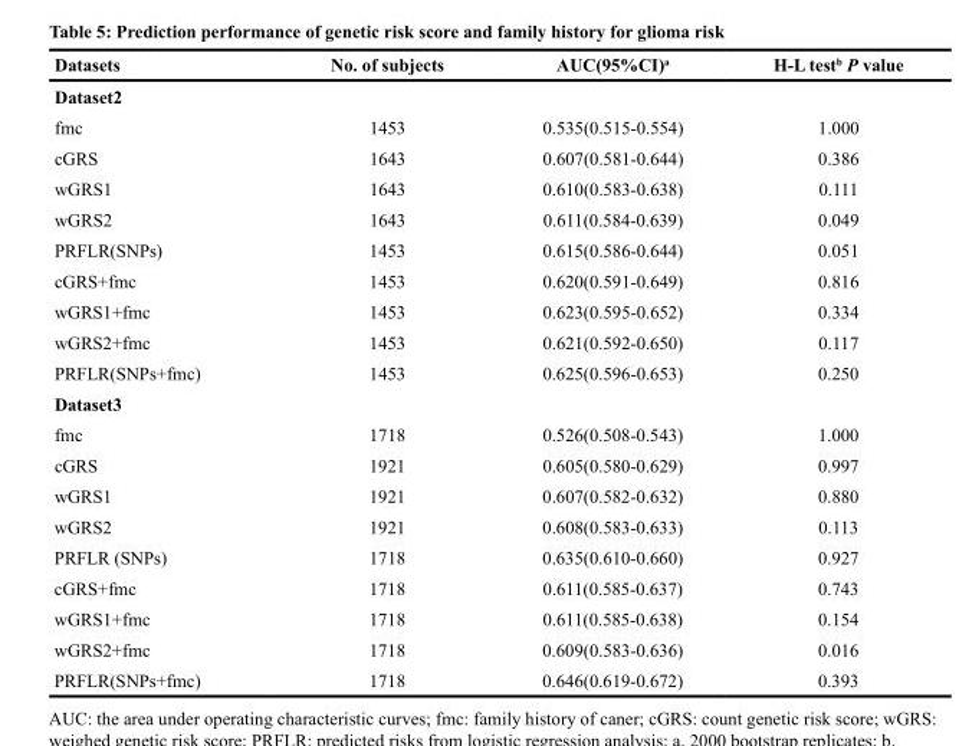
<table><thead><tr><td>Datasets</td><td>No. of subjects</td><td>AUC(95%CI)<sup>a</sup></td><td>H-L test<sup>b</sup> P value</td></tr></thead><tbody><tr><td colspan="4">Dataset2</td></tr><tr><td>fmc</td><td>1453</td><td>0.535(0.515-0.554)</td><td>1.000</td></tr><tr><td>cGRS</td><td>1643</td><td>0.607(0.581-0.644)</td><td>0.386</td></tr><tr><td>wGRS1</td><td>1643</td><td>0.610(0.583-0.638)</td><td>0.111</td></tr><tr><td>wGRS2</td><td>1643</td><td>0.611(0.584-0.639)</td><td>0.049</td></tr><tr><td>PRFLR(SNPs)</td><td>1453</td><td>0.615(0.586-0.644)</td><td>0.051</td></tr><tr><td>cGRS+fmc</td><td>1453</td><td>0.620(0.591-0.649)</td><td>0.816</td></tr><tr><td>wGRS1+fmc</td><td>1453</td><td>0.623(0.595-0.652)</td><td>0.334</td></tr><tr><td>wGRS2+fmc</td><td>1453</td><td>0.621(0.592-0.650)</td><td>0.117</td></tr><tr><td>PRFLR(SNPs+fmc)</td><td>1453</td><td>0.625(0.596-0.653)</td><td>0.250</td></tr><tr><td colspan="4">Dataset3</td></tr><tr><td>fmc</td><td>1718</td><td>0.526(0.508-0.543)</td><td>1.000</td></tr><tr><td>cGRS</td><td>1921</td><td>0.605(0.580-0.629)</td><td>0.997</td></tr><tr><td>wGRS1</td><td>1921</td><td>0.607(0.582-0.632)</td><td>0.880</td></tr><tr><td>wGRS2</td><td>1921</td><td>0.608(0.583-0.633)</td><td>0.113</td></tr><tr><td>PRFLR (SNPs)</td><td>1718</td><td>0.635(0.610-0.660)</td><td>0.927</td></tr><tr><td>cGRS+fmc</td><td>1718</td><td>0.611(0.585-0.637)</td><td>0.743</td></tr><tr><td>wGRS1+fmc</td><td>1718</td><td>0.611(0.585-0.638)</td><td>0.154</td></tr><tr><td>wGRS2+fmc</td><td>1718</td><td>0.609(0.583-0.636)</td><td>0.016</td></tr><tr><td>PRFLR(SNPs+fmc)</td><td>1718</td><td>0.646(0.619-0.672)</td><td>0.393</td></tr></tbody></table>